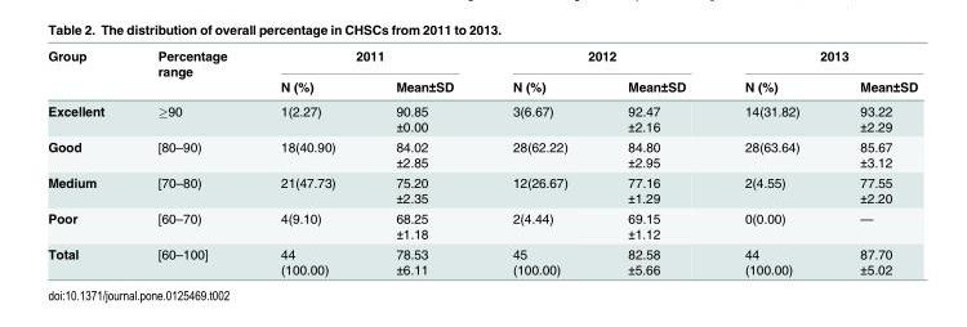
<table><thead><tr><td rowspan="2">Group</td><td rowspan="2">Percentage range</td><td colspan="2">2011</td><td colspan="2">2012</td><td colspan="2">2013</td></tr><tr><td>N (%)</td><td>Mean±SD</td><td>N (%)</td><td>Mean±SD</td><td>N (%)</td><td>Mean±SD</td></tr></thead><tbody><tr><td>Excellent</td><td>≥90</td><td>1(2.27)</td><td>90.85 ±0.00</td><td>3(6.67)</td><td>92.47 ±2.16</td><td>14(31.82)</td><td>93.22 ±2.29</td></tr><tr><td>Good</td><td>[80–90)</td><td>18(40.90)</td><td>84.02 ±2.85</td><td>28(62.22)</td><td>84.80 ±2.95</td><td>28(63.64)</td><td>85.67 ±3.12</td></tr><tr><td>Medium</td><td>[70–80)</td><td>21(47.73)</td><td>75.20 ±2.35</td><td>12(26.67)</td><td>77.16 ±1.29</td><td>2(4.55)</td><td>77.55 ±2.20</td></tr><tr><td>Poor</td><td>[60–70)</td><td>4(9.10)</td><td>68.25 ±1.18</td><td>2(4.44)</td><td>69.15 ±1.12</td><td>0(0.00)</td><td>—</td></tr><tr><td>Total</td><td>[60–100]</td><td>44 (100.00)</td><td>78.53 ±6.11</td><td>45 (100.00)</td><td>82.58 ±5.66</td><td>44 (100.00)</td><td>87.70 ±5.02</td></tr></tbody></table>